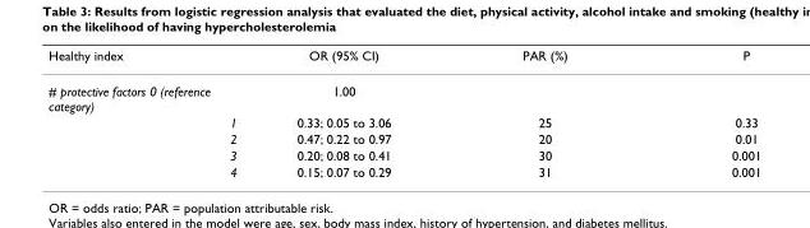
<table><thead><tr><td>Healthy index</td><td>OR (95% CI)</td><td>PAR (%)</td><td>P</td></tr></thead><tbody><tr><td># protective factors 0 (reference category)</td><td>1.00</td><td></td><td></td></tr><tr><td>1</td><td>0.33; 0.05 to 3.06</td><td>25</td><td>0.33</td></tr><tr><td>2</td><td>0.47; 0.22 to 0.97</td><td>20</td><td>0.01</td></tr><tr><td>3</td><td>0.20; 0.08 to 0.41</td><td>30</td><td>0.001</td></tr><tr><td>4</td><td>0.15; 0.07 to 0.29</td><td>31</td><td>0.001</td></tr></tbody></table>